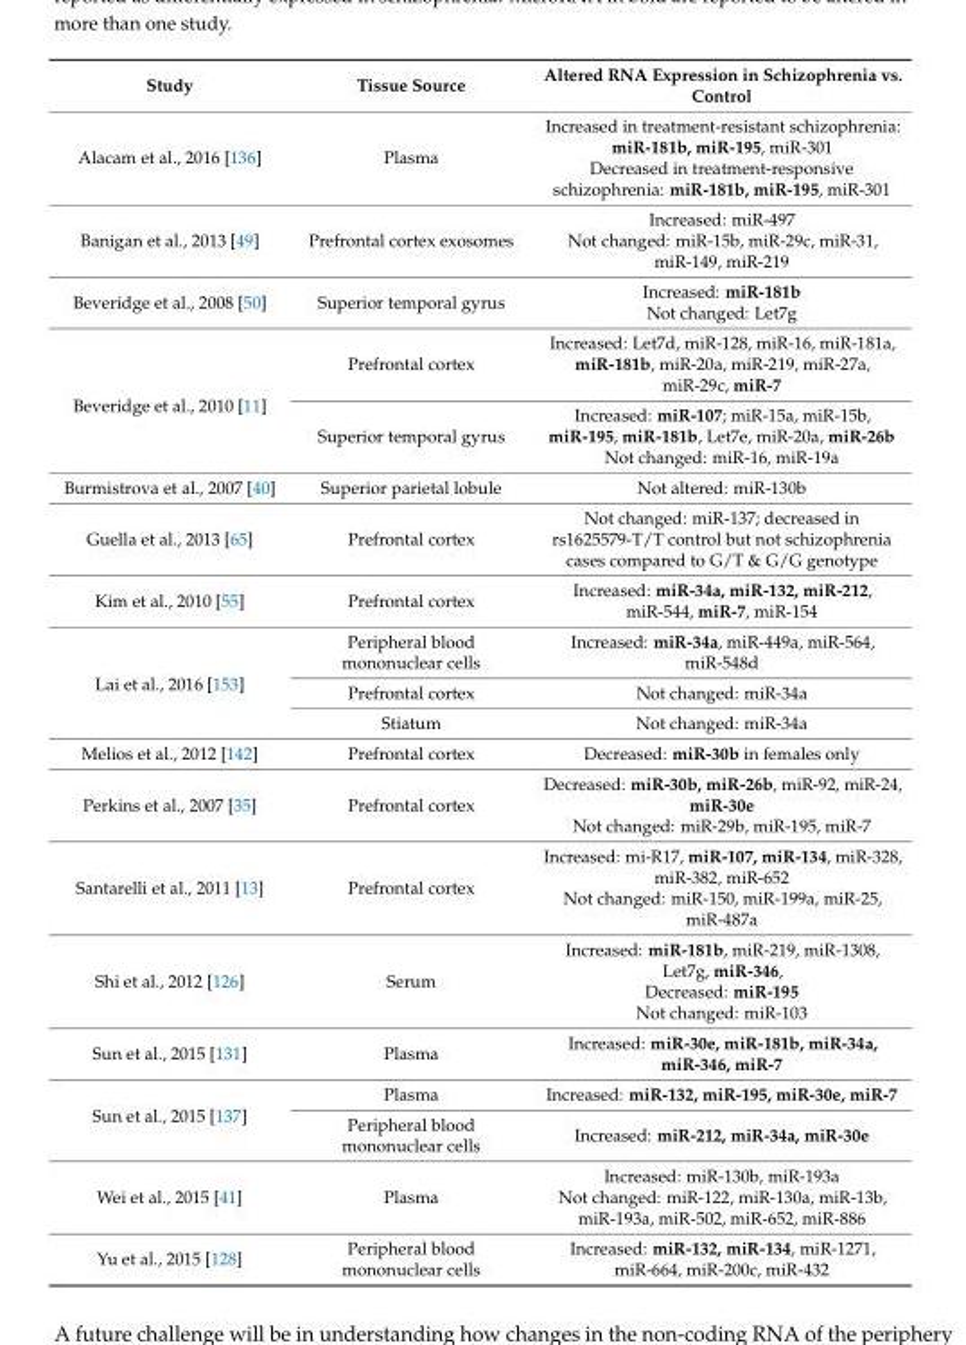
<table><thead><tr><td>Study</td><td>Tissue Source</td><td>Altered RNA Expression in Schizophrenia vs. Control</td></tr></thead><tbody><tr><td>Alacam et al., 2016 [136]</td><td>Plasma</td><td>Increased in treatment-resistant schizophrenia: miR-181b, miR-195, miR-301 Decreased in treatment-responsive schizophrenia: miR-181b, miR-195, miR-301</td></tr><tr><td>Banigan et al., 2013 [49]</td><td>Prefrontal cortex exosomes</td><td>Increased: miR-497 Not changed: miR-15b, miR-29c, miR-31, miR-149, miR-219</td></tr><tr><td>Beveridge et al., 2008 [50]</td><td>Superior temporal gyrus</td><td>Increased: miR-181b Not changed: Let7g</td></tr><tr><td rowspan="2">Beveridge et al., 2010 [11]</td><td>Prefrontal cortex</td><td>Increased: Let7d, miR-128, miR-16, miR-181a, miR-181b, miR-20a, miR-219, miR-27a, miR-29c, miR-7</td></tr><tr><td>Superior temporal gyrus</td><td>Increased: miR-107; miR-15a, miR-15b, miR-195, miR-181b, Let7e, miR-20a, miR-26b Not changed: miR-16, miR-19a</td></tr><tr><td>Burmistrova et al., 2007 [40]</td><td>Superior parietal lobule</td><td>Not altered: miR-130b</td></tr><tr><td>Guella et al., 2013 [65]</td><td>Prefrontal cortex</td><td>Not changed: miR-137; decreased in rs1625579-T/T control but not schizophrenia cases compared to G/T &amp; G/G genotype</td></tr><tr><td>Kim et al., 2010 [55]</td><td>Prefrontal cortex</td><td>Increased: miR-34a, miR-132, miR-212, miR-544, miR-7, miR-154</td></tr><tr><td rowspan="3">Lai et al., 2016 [153]</td><td>Peripheral blood mononuclear cells</td><td>Increased: miR-34a, miR-449a, miR-564, miR-548d</td></tr><tr><td>Prefrontal cortex</td><td>Not changed: miR-34a</td></tr><tr><td>Stiatum</td><td>Not changed: miR-34a</td></tr><tr><td>Melios et al., 2012 [142]</td><td>Prefrontal cortex</td><td>Decreased: miR-30b in females only</td></tr><tr><td>Perkins et al., 2007 [35]</td><td>Prefrontal cortex</td><td>Decreased: miR-30b, miR-26b, miR-92, miR-24, miR-30e Not changed: miR-29b, miR-195, miR-7</td></tr><tr><td>Santarelli et al., 2011 [13]</td><td>Prefrontal cortex</td><td>Increased: mi-R17, miR-107, miR-134, miR-328, miR-382, miR-652 Not changed: miR-150, miR-199a, miR-25, miR-487a</td></tr><tr><td>Shi et al., 2012 [126]</td><td>Serum</td><td>Increased: miR-181b, miR-219, miR-1308, Let7g, miR-346, Decreased: miR-195 Not changed: miR-103</td></tr><tr><td>Sun et al., 2015 [131]</td><td>Plasma</td><td>Increased: miR-30e, miR-181b, miR-34a, miR-346, miR-7</td></tr><tr><td rowspan="2">Sun et al., 2015 [137]</td><td>Plasma</td><td>Increased: miR-132, miR-195, miR-30e, miR-7</td></tr><tr><td>Peripheral blood mononuclear cells</td><td>Increased: miR-212, miR-34a, miR-30e</td></tr><tr><td>Wei et al., 2015 [41]</td><td>Plasma</td><td>Increased: miR-130b, miR-193a Not changed: miR-122, miR-130a, miR-13b, miR-193a, miR-502, miR-652, miR-886</td></tr><tr><td>Yu et al., 2015 [128]</td><td>Peripheral blood mononuclear cells</td><td>Increased: miR-132, miR-134, miR-1271, miR-664, miR-200c, miR-432</td></tr></tbody></table>